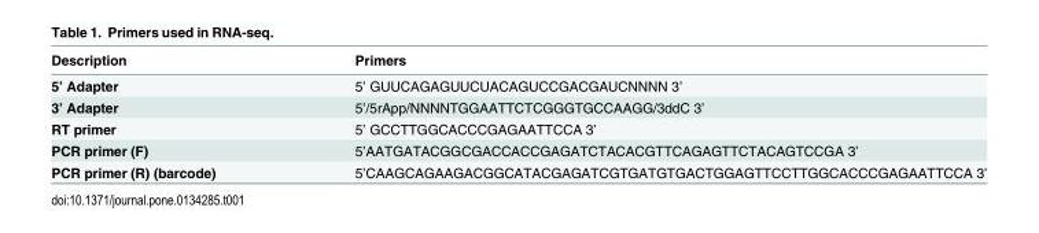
<table><thead><tr><td>Description</td><td>Primers</td></tr></thead><tbody><tr><td>5’ Adapter</td><td>5’ GUUCAGAGUUCUACAGUCCGACGAUCNNNN 3’</td></tr><tr><td>3’ Adapter</td><td>5’/5rApp/NNNNTGGAATTCTCGGGTGCCAAGG/3ddC 3’</td></tr><tr><td>RT primer</td><td>5’ GCCTTGGCACCCGAGAATTCCA 3’</td></tr><tr><td>PCR primer (F)</td><td>5’AATGATACGGCGACCACCGAGATCTACACGTTCAGAGTTCTACAGTCCGA 3’</td></tr><tr><td>PCR primer (R) (barcode)</td><td>5’CAAGCAGAAGACGGCATACGAGATCGTGATGTGACTGGAGTTCCTTGGCACCCGAGAATTCCA 3’</td></tr></tbody></table>